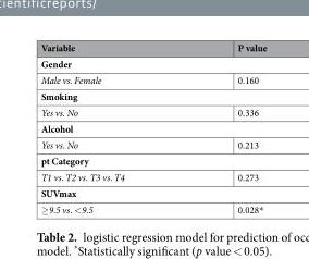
<table><thead><tr><td>Variable</td><td>P value</td></tr></thead><tbody><tr><td colspan="2">Gender</td></tr><tr><td>Male vs. Female</td><td>0.160</td></tr><tr><td colspan="2">Smoking</td></tr><tr><td>Yes vs. No</td><td>0.336</td></tr><tr><td colspan="2">Alcohol</td></tr><tr><td>Yes vs. No</td><td>0.213</td></tr><tr><td colspan="2">pt Category</td></tr><tr><td>T1 vs. T2 vs. T3 vs. T4</td><td>0.273</td></tr><tr><td colspan="2">SUVmax</td></tr><tr><td>≥9.5 vs. &lt;9.5</td><td>0.028*</td></tr></tbody></table>